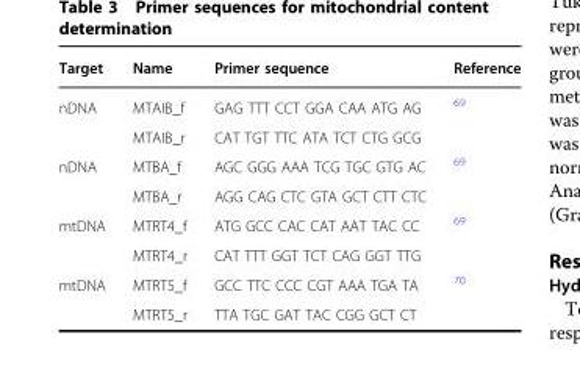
<table><thead><tr><td>Target</td><td>Name</td><td>Primer sequence</td><td>Reference</td></tr></thead><tbody><tr><td rowspan="2">nDNA</td><td>MTAIB_f</td><td>GAG TTT CCT GGA CAA ATG AG</td><td rowspan="2"><sup>69</sup></td></tr><tr><td>MTAIB_r</td><td>CAT TGT TTC ATA TCT CTG GCG</td></tr><tr><td rowspan="2">nDNA</td><td>MTBA_f</td><td>AGC GGG AAA TCG TGC GTG AC</td><td rowspan="2"><sup>69</sup></td></tr><tr><td>MTBA_r</td><td>AGG CAG CTC GTA GCT CTT CTC</td></tr><tr><td rowspan="2">mtDNA</td><td>MTRT4_f</td><td>ATG GCC CAC CAT AAT TAC CC</td><td rowspan="2"><sup>69</sup></td></tr><tr><td>MTRT4_r</td><td>CAT TTT GGT TCT CAG GGT TTG</td></tr><tr><td rowspan="2">mtDNA</td><td>MTRT5_f</td><td>GCC TTC CCC CGT AAA TGA TA</td><td rowspan="2"><sup>70</sup></td></tr><tr><td>MTRT5_r</td><td>TTA TGC GAT TAC CGG GCT CT</td></tr></tbody></table>